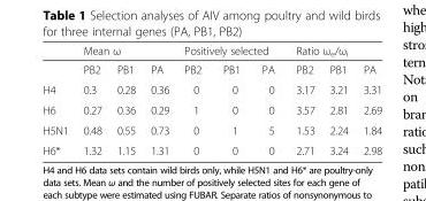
<table><thead><tr><td rowspan="2"></td><td colspan="3">Mean ω</td><td colspan="3">Positively selected</td><td colspan="3">Ratio ω<sub>e</sub>/ω<sub>i</sub></td></tr><tr><td>PB2</td><td>PB1</td><td>PA</td><td>PB2</td><td>PB1</td><td>PA</td><td>PB2</td><td>PB1</td><td>PA</td></tr></thead><tbody><tr><td>H4</td><td>0.3</td><td>0.28</td><td>0.36</td><td>0</td><td>0</td><td>0</td><td>3.17</td><td>3.21</td><td>3.31</td></tr><tr><td>H6</td><td>0.27</td><td>0.36</td><td>0.29</td><td>1</td><td>0</td><td>0</td><td>3.57</td><td>2.81</td><td>2.69</td></tr><tr><td>H5N1</td><td>0.48</td><td>0.55</td><td>0.73</td><td>0</td><td>1</td><td>5</td><td>1.53</td><td>2.24</td><td>1.84</td></tr><tr><td>H6*</td><td>1.32</td><td>1.15</td><td>1.31</td><td>0</td><td>0</td><td>0</td><td>2.71</td><td>3.24</td><td>2.98</td></tr></tbody></table>